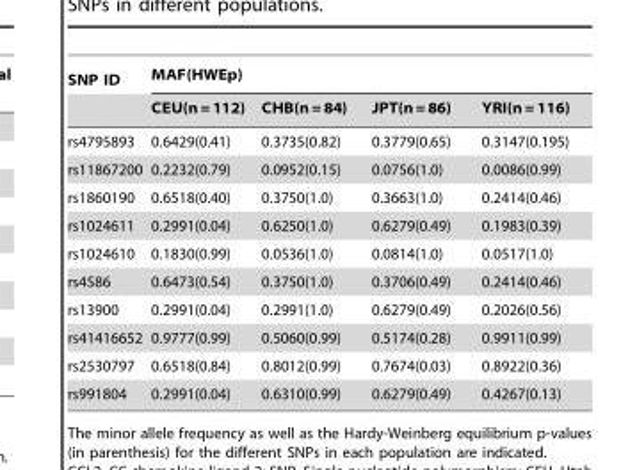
<table><thead><tr><td rowspan="2">SNP ID</td><td colspan="4">MAF(HWEp)</td></tr><tr><td>CEU(n = 112)</td><td>CHB(n = 84)</td><td>JPT(n = 86)</td><td>YRI(n = 116)</td></tr></thead><tbody><tr><td>rs4795893</td><td>0.6429(0.41)</td><td>0.3735(0.82)</td><td>0.3779(0.65)</td><td>0.3147(0.195)</td></tr><tr><td>rs11867200</td><td>0.2232(0.79)</td><td>0.0952(0.15)</td><td>0.0756(1.0)</td><td>0.0086(0.99)</td></tr><tr><td>rs1860190</td><td>0.6518(0.40)</td><td>0.3750(1.0)</td><td>0.3663(1.0)</td><td>0.2414(0.46)</td></tr><tr><td>rs1024611</td><td>0.2991(0.04)</td><td>0.6250(1.0)</td><td>0.6279(0.49)</td><td>0.1983(0.39)</td></tr><tr><td>rs1024610</td><td>0.1830(0.99)</td><td>0.0536(1.0)</td><td>0.0814(1.0)</td><td>0.0517(1.0)</td></tr><tr><td>rs4586</td><td>0.6473(0.54)</td><td>0.3750(1.0)</td><td>0.3706(0.49)</td><td>0.2414(0.46)</td></tr><tr><td>rs13900</td><td>0.2991(0.04)</td><td>0.2991(1.0)</td><td>0.6279(0.49)</td><td>0.2026(0.56)</td></tr><tr><td>rs41416652</td><td>0.9777(0.99)</td><td>0.5060(0.99)</td><td>0.5174(0.28)</td><td>0.9911(0.99)</td></tr><tr><td>rs2530797</td><td>0.6518(0.84)</td><td>0.8012(0.99)</td><td>0.7674(0.03)</td><td>0.8922(0.36)</td></tr><tr><td>rs991804</td><td>0.2991(0.04)</td><td>0.6310(0.99)</td><td>0.6279(0.49)</td><td>0.4267(0.13)</td></tr></tbody></table>